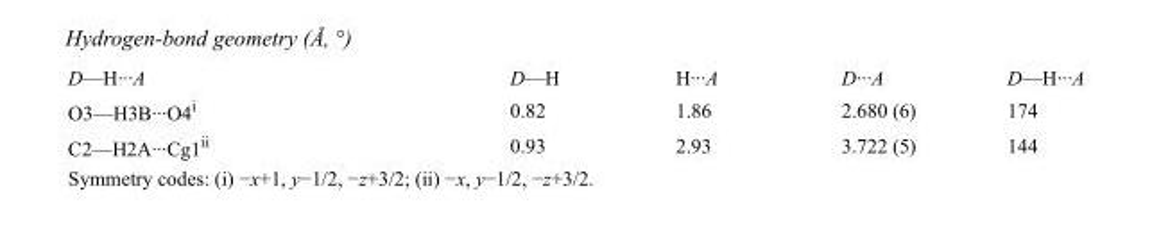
<table><tbody><tr><td>D—H···A</td><td>D—H</td><td>H···A</td><td>D···A</td><td>D—H···A</td></tr><tr><td>O3—H3B···O4<sup>i</sup></td><td>0.82</td><td>1.86</td><td>2.680 (6)</td><td>174</td></tr><tr><td>C2—H2A···Cg1<sup>ii</sup></td><td>0.93</td><td>2.93</td><td>3.722 (5)</td><td>144</td></tr></tbody></table>